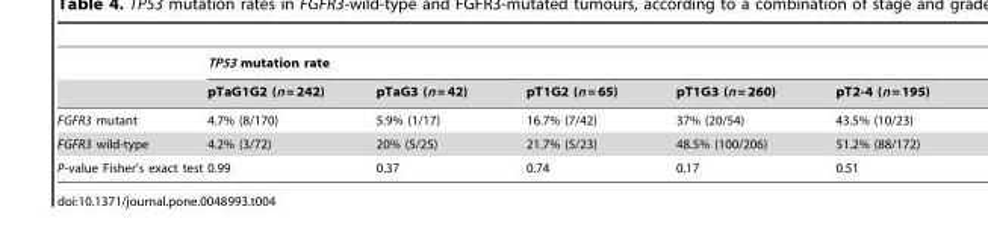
<table><thead><tr><td rowspan="2"></td><td colspan="5">TP53 mutation rate</td></tr><tr><td>pTaG1G2 (n = 242)</td><td>pTaG3 (n = 42)</td><td>pT1G2 (n = 65)</td><td>pT1G3 (n = 260)</td><td>pT2-4 (n = 195)</td></tr></thead><tbody><tr><td>FGFR3 mutant</td><td>4.7% (8/170)</td><td>5.9% (1/17)</td><td>16.7% (7/42)</td><td>37% (20/54)</td><td>43.5% (10/23)</td></tr><tr><td>FGFR3 wild-type</td><td>4.2% (3/72)</td><td>20% (5/25)</td><td>21.7% (5/23)</td><td>48.5% (100/206)</td><td>51.2% (88/172)</td></tr><tr><td>P-value Fisher’s exact test</td><td>0.99</td><td>0.37</td><td>0.74</td><td>0.17</td><td>0.51</td></tr></tbody></table>